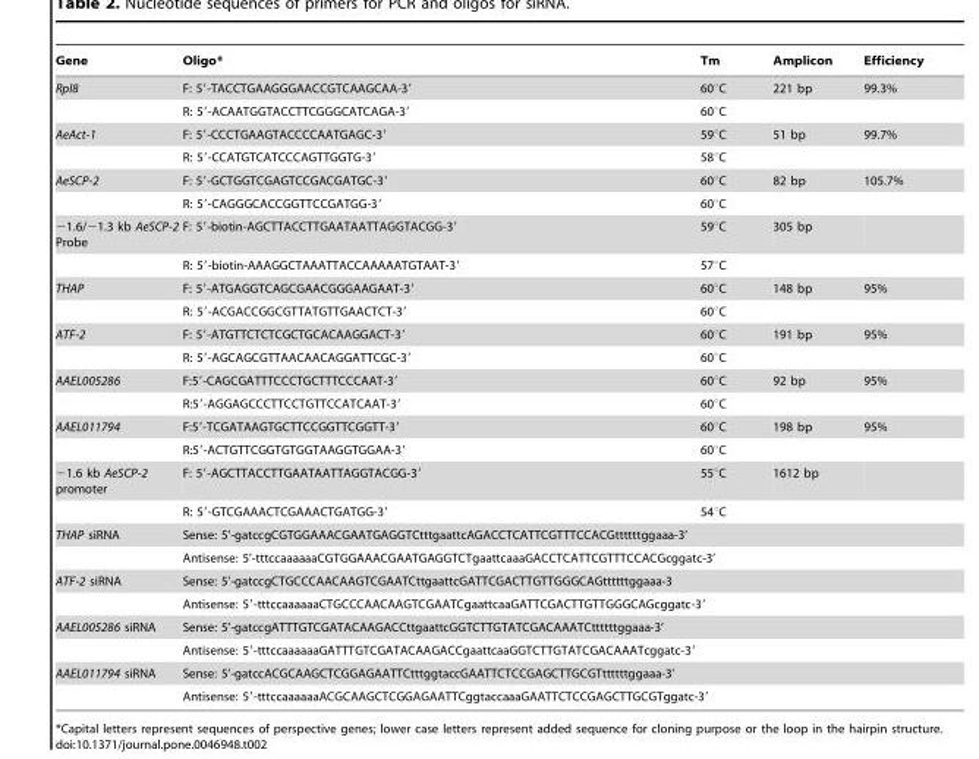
<table><thead><tr><td>Gene</td><td>Oligo*</td><td>Tm</td><td>Amplicon</td><td>Efficiency</td></tr></thead><tbody><tr><td rowspan="2">Rpl8</td><td>F: 5′-TACCTGAAGGGAACCGTCAAGCAA-3′</td><td>60°C</td><td>221 bp</td><td>99.3%</td></tr><tr><td>R: 5′-ACAATGGTACCTTCGGGCATCAGA-3′</td><td>60°C</td><td></td><td></td></tr><tr><td rowspan="2">AeAct-1</td><td>F: 5′-CCCTGAAGTACCCCAATGAGC-3′</td><td>59°C</td><td>51 bp</td><td>99.7%</td></tr><tr><td>R: 5′-CCATGTCATCCCAGTTGGTG-3′</td><td>58°C</td><td></td><td></td></tr><tr><td rowspan="2">AeSCP-2</td><td>F: 5′-GCTGGTCGAGTCCGACGATGC-3′</td><td>60°C</td><td>82 bp</td><td>105.7%</td></tr><tr><td>R: 5′-CAGGGCACCGGTTCCGATGG-3′</td><td>60°C</td><td></td><td></td></tr><tr><td rowspan="2">−1.6/−1.3 kb AeSCP-2 Probe</td><td>F: 5′-biotin-AGCTTACCTTGAATAATTAGGTACGG-3′</td><td>59°C</td><td>305 bp</td><td></td></tr><tr><td>R: 5′-biotin-AAAGGCTAAATTACCAAAAATGTAAT-3′</td><td>57°C</td><td></td><td></td></tr><tr><td rowspan="2">THAP</td><td>F: 5′-ATGAGGTCAGCGAACGGGAAGAAT-3′</td><td>60°C</td><td>148 bp</td><td>95%</td></tr><tr><td>R: 5′-ACGACCGGCGTTATGTTGAACTCT-3′</td><td>60°C</td><td></td><td></td></tr><tr><td rowspan="2">ATF-2</td><td>F: 5′-ATGTTCTCTCGCTGCACAAGGACT-3′</td><td>60°C</td><td>191 bp</td><td>95%</td></tr><tr><td>R: 5′-AGCAGCGTTAACAACAGGATTCGC-3′</td><td>60°C</td><td></td><td></td></tr><tr><td rowspan="2">AAEL005286</td><td>F:5′-CAGCGATTTCCCTGCTTTCCCAAT-3′</td><td>60°C</td><td>92 bp</td><td>95%</td></tr><tr><td>R:5′-AGGAGCCCTTCCTGTTCCATCAAT-3′</td><td>60°C</td><td></td><td></td></tr><tr><td rowspan="2">AAEL011794</td><td>F:5′-TCGATAAGTGCTTCCGGTTCGGTT-3′</td><td>60°C</td><td>198 bp</td><td>95%</td></tr><tr><td>R:5′-ACTGTTCGGTGTGGTAAGGTGGAA-3′</td><td>60°C</td><td></td><td></td></tr><tr><td rowspan="2">−1.6 kb AeSCP-2 promoter</td><td>F: 5′-AGCTTACCTTGAATAATTAGGTACGG-3′</td><td>55°C</td><td>1612 bp</td><td></td></tr><tr><td>R: 5′-GTCGAAACTCGAAACTGATGG-3′</td><td>54°C</td><td></td><td></td></tr><tr><td rowspan="2">THAP siRNA</td><td colspan="4">Sense: 5’-gatccgCGTGGAAACGAATGAGGTCtttgaattcAGACCTCATTCGTTTCCACGttttttggaaa-3’</td></tr><tr><td colspan="4">Antisense: 5’-tttccaaaaaaCGTGGAAACGAATGAGGTCTgaattcaaaGACCTCATTCGTTTCCACGcggatc-3’</td></tr><tr><td rowspan="2">ATF-2 siRNA</td><td colspan="4">Sense: 5’-gatccgCTGCCCAACAAGTCGAATCttgaattcGATTCGACTTGTTGGGCAGttttttggaaa-3</td></tr><tr><td colspan="4">Antisense: 5′-tttccaaaaaaCTGCCCAACAAGTCGAATCgaattcaaGATTCGACTTGTTGGGCAGcggatc-3′</td></tr><tr><td rowspan="2">AAEL005286 siRNA</td><td colspan="4">Sense: 5’-gatccgATTTGTCGATACAAGACCttgaattcGGTCTTGTATCGACAAATCttttttggaaa-3’</td></tr><tr><td colspan="4">Antisense: 5′-tttccaaaaaaGATTTGTCGATACAAGACCgaattcaaGGTCTTGTATCGACAAATcggatc-3′</td></tr><tr><td rowspan="2">AAEL011794 siRNA</td><td colspan="4">Sense: 5’-gatccACGCAAGCTCGGAGAATTCtttggtaccGAATTCTCCGAGCTTGCGTttttttggaaa-3’</td></tr><tr><td colspan="4">Antisense: 5′-tttccaaaaaaACGCAAGCTCGGAGAATTCggtaccaaaGAATTCTCCGAGCTTGCGTggatc-3′</td></tr></tbody></table>